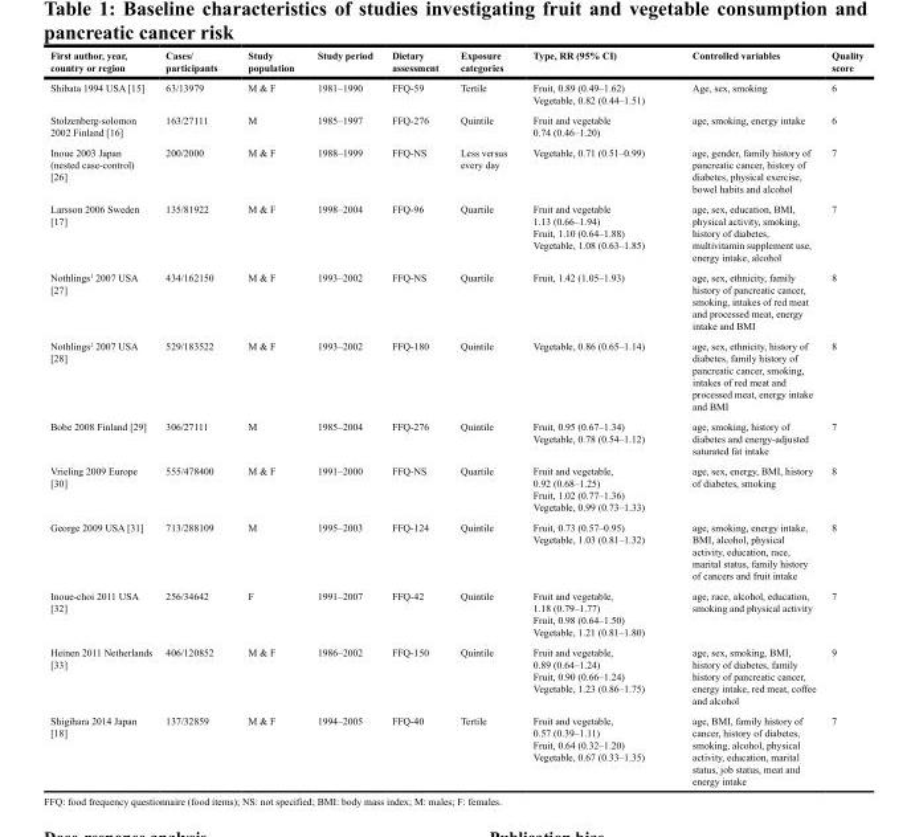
<table><thead><tr><td>First author, year, country or region</td><td>Cases/ participants</td><td>Study population</td><td>Study period</td><td>Dietary assessment</td><td>Exposure categories</td><td>Type, RR (95% CI)</td><td>Controlled variables</td><td>Quality score</td></tr></thead><tbody><tr><td>Shibata 1994 USA [15]</td><td>63/13979</td><td>M &amp; F</td><td>1981–1990</td><td>FFQ-59</td><td>Tertile</td><td>Fruit, 0.89 (0.49–1.62) Vegetable, 0.82 (0.44–1.51)</td><td>Age, sex, smoking</td><td>6</td></tr><tr><td>Stolzenberg-solomon 2002 Finland [16]</td><td>163/27111</td><td>M</td><td>1985–1997</td><td>FFQ-276</td><td>Quintile</td><td>Fruit and vegetable 0.74 (0.46–1.20)</td><td>age, smoking, energy intake</td><td>6</td></tr><tr><td>Inoue 2003 Japan (nested case-control) [26]</td><td>200/2000</td><td>M &amp; F</td><td>1988–1999</td><td>FFQ-NS</td><td>Less versus every day</td><td>Vegetable, 0.71 (0.51–0.99)</td><td>age, gender, family history of pancreatic cancer, history of diabetes, physical exercise, bowel habits and alcohol</td><td>7</td></tr><tr><td>Larsson 2006 Sweden [17]</td><td>135/81922</td><td>M &amp; F</td><td>1998–2004</td><td>FFQ-96</td><td>Quartile</td><td>Fruit and vegetable 1.13 (0.66–1.94) Fruit, 1.10 (0.64–1.88) Vegetable, 1.08 (0.63–1.85)</td><td>age, sex, education, BMI, physical activity, smoking, history of diabetes, multivitamin supplement use, energy intake, alcohol</td><td>7</td></tr><tr><td>Nothlings<sup>1</sup> 2007 USA [27]</td><td>434/162150</td><td>M &amp; F</td><td>1993–2002</td><td>FFQ-NS</td><td>Quartile</td><td>Fruit, 1.42 (1.05–1.93)</td><td>age, sex, ethnicity, family history of pancreatic cancer, smoking, intakes of red meat and processed meat, energy intake and BMI</td><td>8</td></tr><tr><td>Nothlings<sup>2</sup> 2007 USA [28]</td><td>529/183522</td><td>M &amp; F</td><td>1993–2002</td><td>FFQ-180</td><td>Quintile</td><td>Vegetable, 0.86 (0.65–1.14)</td><td>age, sex, ethnicity, history of diabetes, family history of pancreatic cancer, smoking, intakes of red meat and processed meat, energy intake and BMI</td><td>8</td></tr><tr><td>Bobe 2008 Finland [29]</td><td>306/27111</td><td>M</td><td>1985–2004</td><td>FFQ-276</td><td>Quintile</td><td>Fruit, 0.95 (0.67–1.34) Vegetable, 0.78 (0.54–1.12)</td><td>age, smoking, history of diabetes and energy-adjusted saturated fat intake</td><td>7</td></tr><tr><td>Vrieling 2009 Europe [30]</td><td>555/478400</td><td>M &amp; F</td><td>1991–2000</td><td>FFQ-NS</td><td>Quartile</td><td>Fruit and vegetable, 0.92 (0.68–1.25) Fruit, 1.02 (0.77–1.36) Vegetable, 0.99 (0.73–1.33)</td><td>age, sex, energy, BMI, history of diabetes, smoking</td><td>8</td></tr><tr><td>George 2009 USA [31]</td><td>713/288109</td><td>M</td><td>1995–2003</td><td>FFQ-124</td><td>Quintile</td><td>Fruit, 0.73 (0.57–0.95) Vegetable, 1.03 (0.81–1.32)</td><td>age, smoking, energy intake, BMI, alcohol, physical activity, education, race, marital status, family history of cancers and fruit intake</td><td>8</td></tr><tr><td>Inoue-choi 2011 USA [32]</td><td>256/34642</td><td>F</td><td>1991–2007</td><td>FFQ-42</td><td>Quintile</td><td>Fruit and vegetable, 1.18 (0.79–1.77) Fruit, 0.98 (0.64–1.50) Vegetable, 1.21 (0.81–1.80)</td><td>age, race, alcohol, education, smoking and physical activity</td><td>7</td></tr><tr><td>Heinen 2011 Netherlands [33]</td><td>406/120852</td><td>M &amp; F</td><td>1986–2002</td><td>FFQ-150</td><td>Quintile</td><td>Fruit and vegetable, 0.89 (0.64–1.24) Fruit, 0.90 (0.66–1.24) Vegetable, 1.23 (0.86–1.75)</td><td>age, sex, smoking, BMI, history of diabetes, family history of pancreatic cancer, energy intake, red meat, coffee and alcohol</td><td>9</td></tr><tr><td>Shigihara 2014 Japan [18]</td><td>137/32859</td><td>M &amp; F</td><td>1994–2005</td><td>FFQ-40</td><td>Tertile</td><td>Fruit and vegetable, 0.57 (0.39–1.11) Fruit, 0.64 (0.32–1.20) Vegetable, 0.67 (0.33–1.35)</td><td>age, BMI, family history of cancer, history of diabetes, smoking, alcohol, physical activity, education, marital status, job status, meat and energy intake</td><td>7</td></tr></tbody></table>